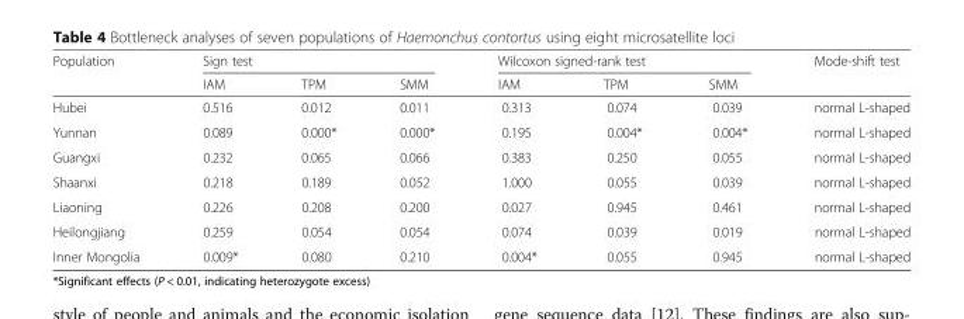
<table><thead><tr><td rowspan="2">Population</td><td colspan="3">Sign test</td><td colspan="3">Wilcoxon signed-rank test</td><td rowspan="2">Mode-shift test</td></tr><tr><td>IAM</td><td>TPM</td><td>SMM</td><td>IAM</td><td>TPM</td><td>SMM</td></tr></thead><tbody><tr><td>Hubei</td><td>0.516</td><td>0.012</td><td>0.011</td><td>0.313</td><td>0.074</td><td>0.039</td><td>normal L-shaped</td></tr><tr><td>Yunnan</td><td>0.089</td><td>0.000*</td><td>0.000*</td><td>0.195</td><td>0.004*</td><td>0.004*</td><td>normal L-shaped</td></tr><tr><td>Guangxi</td><td>0.232</td><td>0.065</td><td>0.066</td><td>0.383</td><td>0.250</td><td>0.055</td><td>normal L-shaped</td></tr><tr><td>Shaanxi</td><td>0.218</td><td>0.189</td><td>0.052</td><td>1.000</td><td>0.055</td><td>0.039</td><td>normal L-shaped</td></tr><tr><td>Liaoning</td><td>0.226</td><td>0.208</td><td>0.200</td><td>0.027</td><td>0.945</td><td>0.461</td><td>normal L-shaped</td></tr><tr><td>Heilongjiang</td><td>0.259</td><td>0.054</td><td>0.054</td><td>0.074</td><td>0.039</td><td>0.019</td><td>normal L-shaped</td></tr><tr><td>Inner Mongolia</td><td>0.009*</td><td>0.080</td><td>0.210</td><td>0.004*</td><td>0.055</td><td>0.945</td><td>normal L-shaped</td></tr></tbody></table>